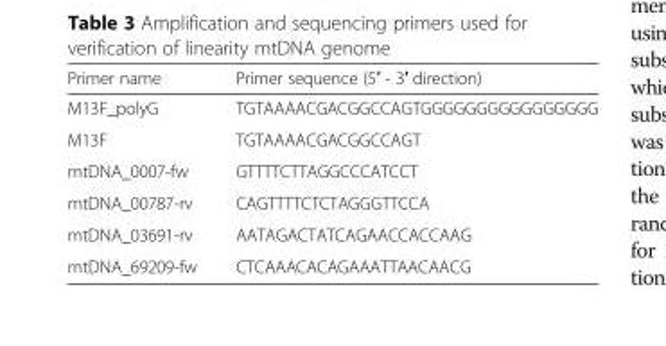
<table><thead><tr><td>Primer name</td><td>Primer sequence (5′ - 3′ direction)</td></tr></thead><tbody><tr><td>M13F_polyG</td><td>TGTAAAACGACGGCCAGTGGGGGGGGGGGGGGGG</td></tr><tr><td>M13F</td><td>TGTAAAACGACGGCCAGT</td></tr><tr><td>mtDNA_0007-fw</td><td>GTTTTCTTAGGCCCATCCT</td></tr><tr><td>mtDNA_00787-rv</td><td>CAGTTTTCTCTAGGGTTCCA</td></tr><tr><td>mtDNA_03691-rv</td><td>AATAGACTATCAGAACCACCAAG</td></tr><tr><td>mtDNA_69209-fw</td><td>CTCAAACACAGAAATTAACAACG</td></tr></tbody></table>